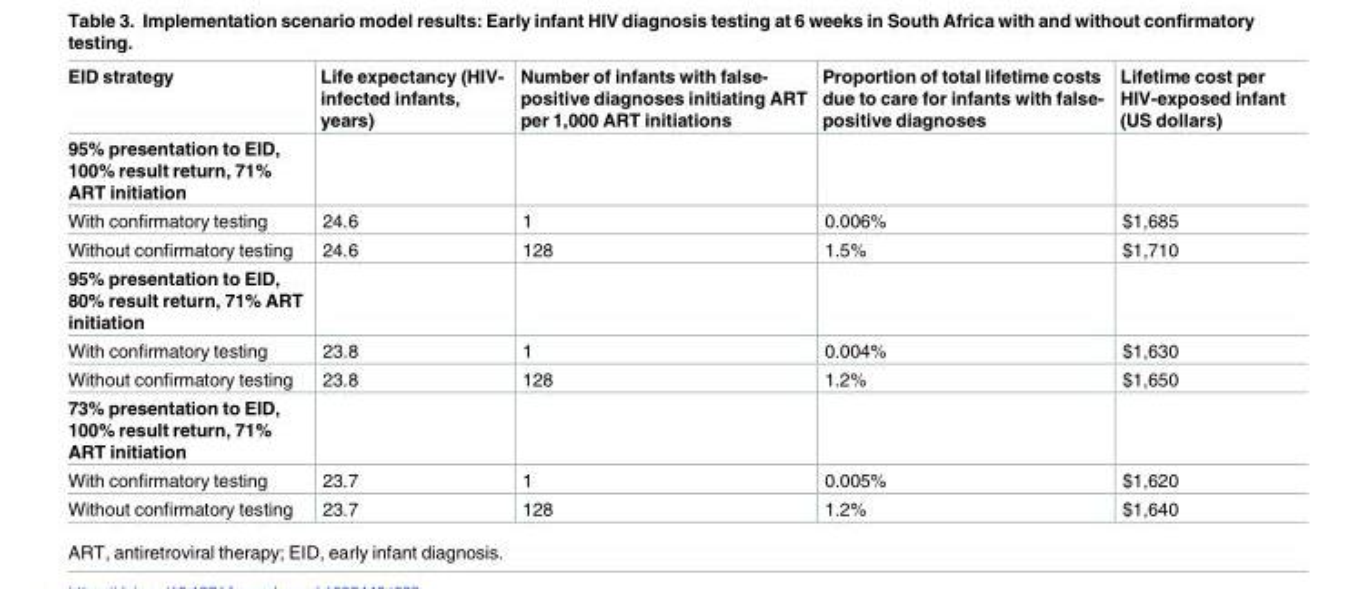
<table><thead><tr><td>EID strategy</td><td>Life expectancy (HIV- infected infants, years)</td><td>Number of infants with false- positive diagnoses initiating ART per 1,000 ART initiations</td><td>Proportion of total lifetime costs due to care for infants with false- positive diagnoses</td><td>Lifetime cost per HIV-exposed infant (US dollars)</td></tr></thead><tbody><tr><td colspan="5">95% presentation to EID, 100% result return, 71% ART initiation</td></tr><tr><td>With confirmatory testing</td><td>24.6</td><td>1</td><td>0.006%</td><td>$1,685</td></tr><tr><td>Without confirmatory testing</td><td>24.6</td><td>128</td><td>1.5%</td><td>$1,710</td></tr><tr><td colspan="5">95% presentation to EID, 80% result return, 71% ART initiation</td></tr><tr><td>With confirmatory testing</td><td>23.8</td><td>1</td><td>0.004%</td><td>$1,630</td></tr><tr><td>Without confirmatory testing</td><td>23.8</td><td>128</td><td>1.2%</td><td>$1,650</td></tr><tr><td colspan="5">73% presentation to EID, 100% result return, 71% ART initiation</td></tr><tr><td>With confirmatory testing</td><td>23.7</td><td>1</td><td>0.005%</td><td>$1,620</td></tr><tr><td>Without confirmatory testing</td><td>23.7</td><td>128</td><td>1.2%</td><td>$1,640</td></tr></tbody></table>